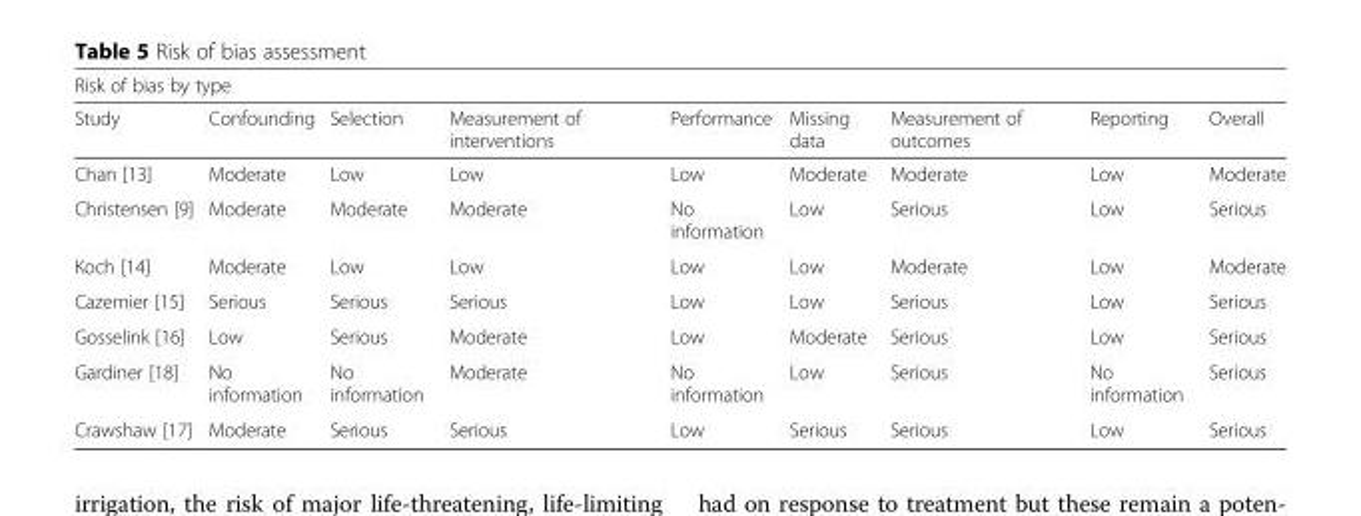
<table><thead><tr><td colspan="9">Risk of bias by type</td></tr><tr><td>Study</td><td>Confounding</td><td>Selection</td><td>Measurement of interventions</td><td>Performance</td><td>Missing data</td><td>Measurement of outcomes</td><td>Reporting</td><td>Overall</td></tr></thead><tbody><tr><td>Chan [13]</td><td>Moderate</td><td>Low</td><td>Low</td><td>Low</td><td>Moderate</td><td>Moderate</td><td>Low</td><td>Moderate</td></tr><tr><td>Christensen [9]</td><td>Moderate</td><td>Moderate</td><td>Moderate</td><td>No information</td><td>Low</td><td>Serious</td><td>Low</td><td>Serious</td></tr><tr><td>Koch [14]</td><td>Moderate</td><td>Low</td><td>Low</td><td>Low</td><td>Low</td><td>Moderate</td><td>Low</td><td>Moderate</td></tr><tr><td>Cazemier [15]</td><td>Serious</td><td>Serious</td><td>Serious</td><td>Low</td><td>Low</td><td>Serious</td><td>Low</td><td>Serious</td></tr><tr><td>Gosselink [16]</td><td>Low</td><td>Serious</td><td>Moderate</td><td>Low</td><td>Moderate</td><td>Serious</td><td>Low</td><td>Serious</td></tr><tr><td>Gardiner [18]</td><td>No information</td><td>No information</td><td>Moderate</td><td>No information</td><td>Low</td><td>Serious</td><td>No information</td><td>Serious</td></tr><tr><td>Crawshaw [17]</td><td>Moderate</td><td>Serious</td><td>Serious</td><td>Low</td><td>Serious</td><td>Serious</td><td>Low</td><td>Serious</td></tr></tbody></table>